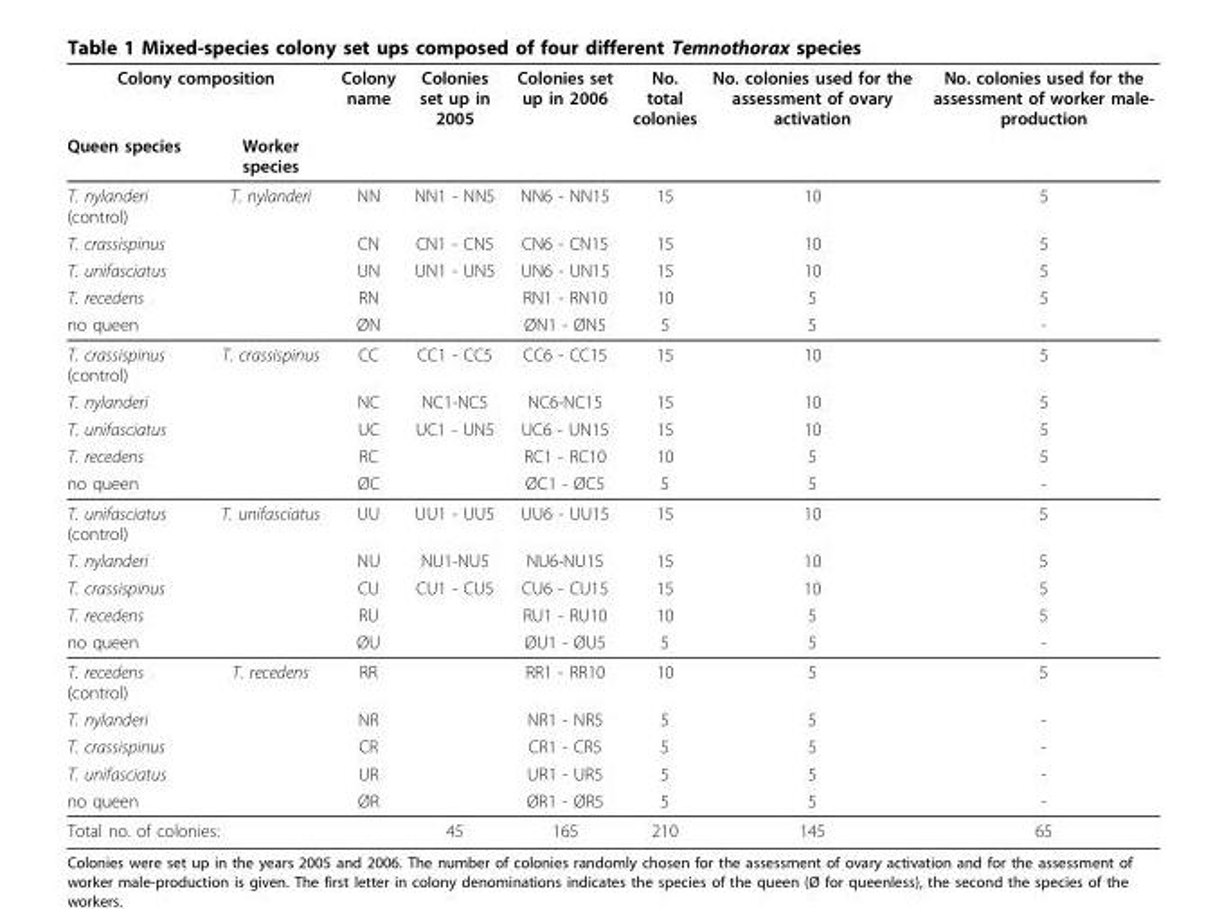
<table><thead><tr><td colspan="2">Colony composition</td><td rowspan="2">Colony name</td><td rowspan="2">Colonies set up in 2005</td><td rowspan="2">Colonies set up in 2006</td><td rowspan="2">No. total colonies</td><td rowspan="2">No. colonies used for the assessment of ovary activation</td><td rowspan="2">No. colonies used for the assessment of worker male- production</td></tr><tr><td>Queen species</td><td>Worker species</td></tr></thead><tbody><tr><td>T. nylanderi (control)</td><td>T. nylanderi</td><td>NN</td><td>NN1 - NN5</td><td>NN6 - NN15</td><td>15</td><td>10</td><td>5</td></tr><tr><td>T. crassispinus</td><td></td><td>CN</td><td>CN1 - CN5</td><td>CN6 - CN15</td><td>15</td><td>10</td><td>5</td></tr><tr><td>T. unifasciatus</td><td></td><td>UN</td><td>UN1 - UN5</td><td>UN6 - UN15</td><td>15</td><td>10</td><td>5</td></tr><tr><td>T. recedens</td><td></td><td>RN</td><td></td><td>RN1 - RN10</td><td>10</td><td>5</td><td>5</td></tr><tr><td>no queen</td><td></td><td>ØN</td><td></td><td>ØN1 - ØN5</td><td>5</td><td>5</td><td>-</td></tr><tr><td>T. crassispinus (control)</td><td>T. crassispinus</td><td>CC</td><td>CC1 - CC5</td><td>CC6 - CC15</td><td>15</td><td>10</td><td>5</td></tr><tr><td>T. nylanderi</td><td></td><td>NC</td><td>NC1-NC5</td><td>NC6-NC15</td><td>15</td><td>10</td><td>5</td></tr><tr><td>T. unifasciatus</td><td></td><td>UC</td><td>UC1 - UN5</td><td>UC6 - UN15</td><td>15</td><td>10</td><td>5</td></tr><tr><td>T. recedens</td><td></td><td>RC</td><td></td><td>RC1 - RC10</td><td>10</td><td>5</td><td>5</td></tr><tr><td>no queen</td><td></td><td>ØC</td><td></td><td>ØC1 - ØC5</td><td>5</td><td>5</td><td>-</td></tr><tr><td>T. unifasciatus (control)</td><td>T. unifasciatus</td><td>UU</td><td>UU1 - UU5</td><td>UU6 - UU15</td><td>15</td><td>10</td><td>5</td></tr><tr><td>T. nylanderi</td><td></td><td>NU</td><td>NU1-NU5</td><td>NU6-NU15</td><td>15</td><td>10</td><td>5</td></tr><tr><td>T. crassispinus</td><td></td><td>CU</td><td>CU1 - CU5</td><td>CU6 - CU15</td><td>15</td><td>10</td><td>5</td></tr><tr><td>T. recedens</td><td></td><td>RU</td><td></td><td>RU1 - RU10</td><td>10</td><td>5</td><td>5</td></tr><tr><td>no queen</td><td></td><td>ØU</td><td></td><td>ØU1 - ØU5</td><td>5</td><td>5</td><td>-</td></tr><tr><td>T. recedens (control)</td><td>T. recedens</td><td>RR</td><td></td><td>RR1 - RR10</td><td>10</td><td>5</td><td>5</td></tr><tr><td>T. nylanderi</td><td></td><td>NR</td><td></td><td>NR1 - NR5</td><td>5</td><td>5</td><td>-</td></tr><tr><td>T. crassispinus</td><td></td><td>CR</td><td></td><td>CR1 - CR5</td><td>5</td><td>5</td><td>-</td></tr><tr><td>T. unifasciatus</td><td></td><td>UR</td><td></td><td>UR1 - UR5</td><td>5</td><td>5</td><td>-</td></tr><tr><td>no queen</td><td></td><td>ØR</td><td></td><td>ØR1 - ØR5</td><td>5</td><td>5</td><td>-</td></tr><tr><td colspan="2">Total no. of colonies:</td><td></td><td>45</td><td>165</td><td>210</td><td>145</td><td>65</td></tr></tbody></table>